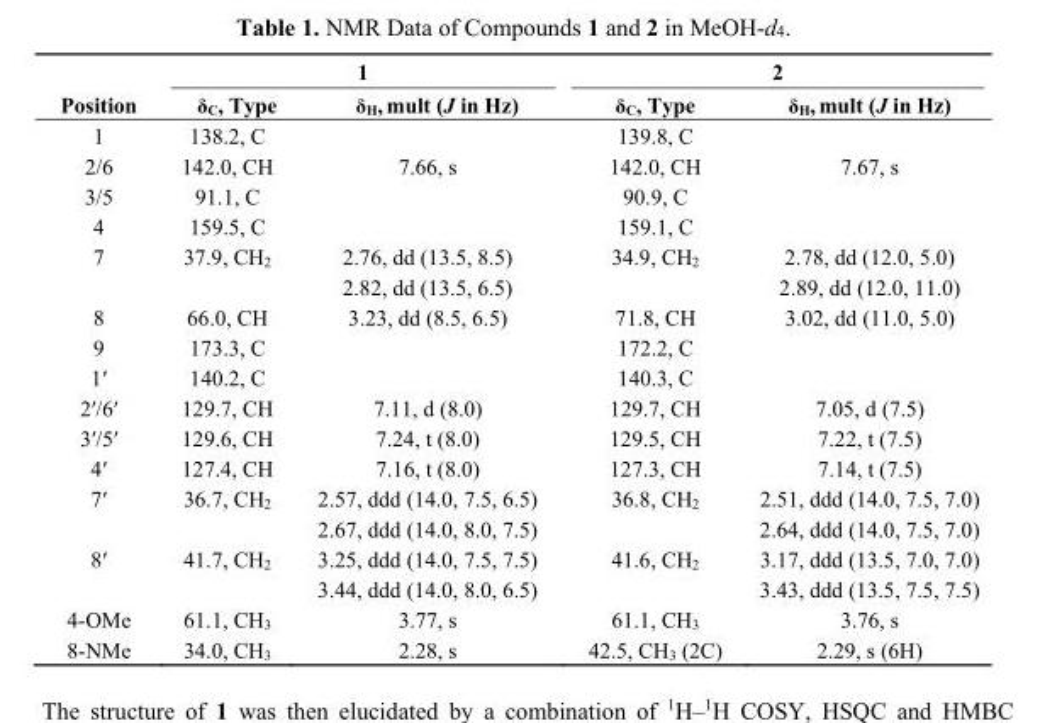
<table><thead><tr><td rowspan="2">Position</td><td colspan="2">1</td><td colspan="2">2</td></tr><tr><td>δ<sub>C</sub>, Type</td><td>δ<sub>H</sub>, mult (J in Hz)</td><td>δ<sub>C</sub>, Type</td><td>δ<sub>H</sub>, mult (J in Hz)</td></tr></thead><tbody><tr><td>1</td><td>138.2, C</td><td></td><td>139.8, C</td><td></td></tr><tr><td>2/6</td><td>142.0, CH</td><td>7.66, s</td><td>142.0, CH</td><td>7.67, s</td></tr><tr><td>3/5</td><td>91.1, C</td><td></td><td>90.9, C</td><td></td></tr><tr><td>4</td><td>159.5, C</td><td></td><td>159.1, C</td><td></td></tr><tr><td rowspan="2">7</td><td>37.9, CH<sub>2</sub></td><td>2.76, dd (13.5, 8.5)</td><td>34.9, CH<sub>2</sub></td><td>2.78, dd (12.0, 5.0)</td></tr><tr><td></td><td>2.82, dd (13.5, 6.5)</td><td></td><td>2.89, dd (12.0, 11.0)</td></tr><tr><td>8</td><td>66.0, CH</td><td>3.23, dd (8.5, 6.5)</td><td>71.8, CH</td><td>3.02, dd (11.0, 5.0)</td></tr><tr><td>9</td><td>173.3, C</td><td></td><td>172.2, C</td><td></td></tr><tr><td>1′</td><td>140.2, C</td><td></td><td>140.3, C</td><td></td></tr><tr><td>2′/6′</td><td>129.7, CH</td><td>7.11, d (8.0)</td><td>129.7, CH</td><td>7.05, d (7.5)</td></tr><tr><td>3′/5′</td><td>129.6, CH</td><td>7.24, t (8.0)</td><td>129.5, CH</td><td>7.22, t (7.5)</td></tr><tr><td>4′</td><td>127.4, CH</td><td>7.16, t (8.0)</td><td>127.3, CH</td><td>7.14, t (7.5)</td></tr><tr><td rowspan="2">7′</td><td>36.7, CH<sub>2</sub></td><td>2.57, ddd (14.0, 7.5, 6.5)</td><td>36.8, CH<sub>2</sub></td><td>2.51, ddd (14.0, 7.5, 7.0)</td></tr><tr><td></td><td>2.67, ddd (14.0, 8.0, 7.5)</td><td></td><td>2.64, ddd (14.0, 7.5, 7.0)</td></tr><tr><td rowspan="2">8′</td><td>41.7, CH<sub>2</sub></td><td>3.25, ddd (14.0, 7.5, 7.5)</td><td>41.6, CH<sub>2</sub></td><td>3.17, ddd (13.5, 7.0, 7.0)</td></tr><tr><td></td><td>3.44, ddd (14.0, 8.0, 6.5)</td><td></td><td>3.43, ddd (13.5, 7.5, 7.5)</td></tr><tr><td>4-OMe</td><td>61.1, CH<sub>3</sub></td><td>3.77, s</td><td>61.1, CH<sub>3</sub></td><td>3.76, s</td></tr><tr><td>8-NMe</td><td>34.0, CH<sub>3</sub></td><td>2.28, s</td><td>42.5, CH<sub>3</sub> (2C)</td><td>2.29, s (6H)</td></tr></tbody></table>